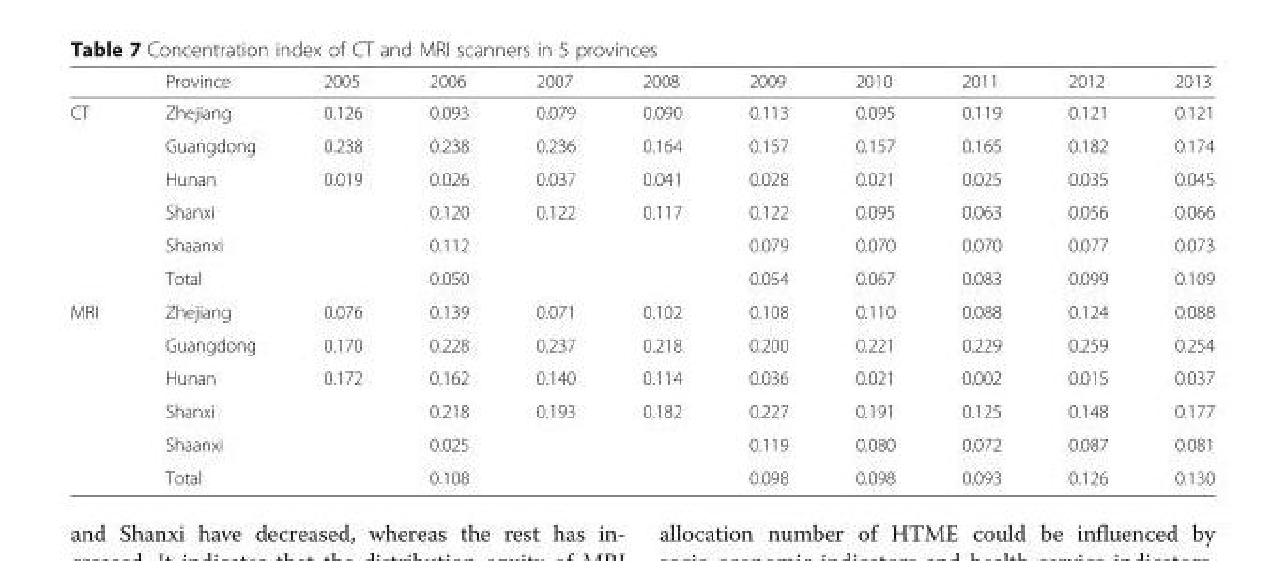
<table><thead><tr><td></td><td>Province</td><td>2005</td><td>2006</td><td>2007</td><td>2008</td><td>2009</td><td>2010</td><td>2011</td><td>2012</td><td>2013</td></tr></thead><tbody><tr><td rowspan="6">CT</td><td>Zhejiang</td><td>0.126</td><td>0.093</td><td>0.079</td><td>0.090</td><td>0.113</td><td>0.095</td><td>0.119</td><td>0.121</td><td>0.121</td></tr><tr><td>Guangdong</td><td>0.238</td><td>0.238</td><td>0.236</td><td>0.164</td><td>0.157</td><td>0.157</td><td>0.165</td><td>0.182</td><td>0.174</td></tr><tr><td>Hunan</td><td>0.019</td><td>0.026</td><td>0.037</td><td>0.041</td><td>0.028</td><td>0.021</td><td>0.025</td><td>0.035</td><td>0.045</td></tr><tr><td>Shanxi</td><td></td><td>0.120</td><td>0.122</td><td>0.117</td><td>0.122</td><td>0.095</td><td>0.063</td><td>0.056</td><td>0.066</td></tr><tr><td>Shaanxi</td><td></td><td>0.112</td><td></td><td></td><td>0.079</td><td>0.070</td><td>0.070</td><td>0.077</td><td>0.073</td></tr><tr><td>Total</td><td></td><td>0.050</td><td></td><td></td><td>0.054</td><td>0.067</td><td>0.083</td><td>0.099</td><td>0.109</td></tr><tr><td rowspan="6">MRI</td><td>Zhejiang</td><td>0.076</td><td>0.139</td><td>0.071</td><td>0.102</td><td>0.108</td><td>0.110</td><td>0.088</td><td>0.124</td><td>0.088</td></tr><tr><td>Guangdong</td><td>0.170</td><td>0.228</td><td>0.237</td><td>0.218</td><td>0.200</td><td>0.221</td><td>0.229</td><td>0.259</td><td>0.254</td></tr><tr><td>Hunan</td><td>0.172</td><td>0.162</td><td>0.140</td><td>0.114</td><td>0.036</td><td>0.021</td><td>0.002</td><td>0.015</td><td>0.037</td></tr><tr><td>Shanxi</td><td></td><td>0.218</td><td>0.193</td><td>0.182</td><td>0.227</td><td>0.191</td><td>0.125</td><td>0.148</td><td>0.177</td></tr><tr><td>Shaanxi</td><td></td><td>0.025</td><td></td><td></td><td>0.119</td><td>0.080</td><td>0.072</td><td>0.087</td><td>0.081</td></tr><tr><td>Total</td><td></td><td>0.108</td><td></td><td></td><td>0.098</td><td>0.098</td><td>0.093</td><td>0.126</td><td>0.130</td></tr></tbody></table>